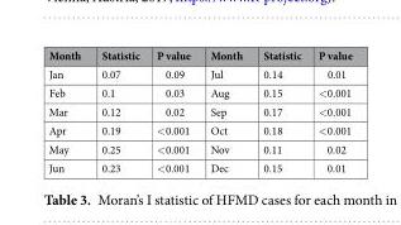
<table><thead><tr><td>Month</td><td>Statistic</td><td>P value</td><td>Month</td><td>Statistic</td><td>P value</td></tr></thead><tbody><tr><td>Jan</td><td>0.07</td><td>0.09</td><td>Jul</td><td>0.14</td><td>0.01</td></tr><tr><td>Feb</td><td>0.1</td><td>0.03</td><td>Aug</td><td>0.15</td><td>&lt;0.001</td></tr><tr><td>Mar</td><td>0.12</td><td>0.02</td><td>Sep</td><td>0.17</td><td>&lt;0.001</td></tr><tr><td>Apr</td><td>0.19</td><td>&lt;0.001</td><td>Oct</td><td>0.18</td><td>&lt;0.001</td></tr><tr><td>May</td><td>0.25</td><td>&lt;0.001</td><td>Nov</td><td>0.11</td><td>0.02</td></tr><tr><td>Jun</td><td>0.23</td><td>&lt;0.001</td><td>Dec</td><td>0.15</td><td>0.01</td></tr></tbody></table>